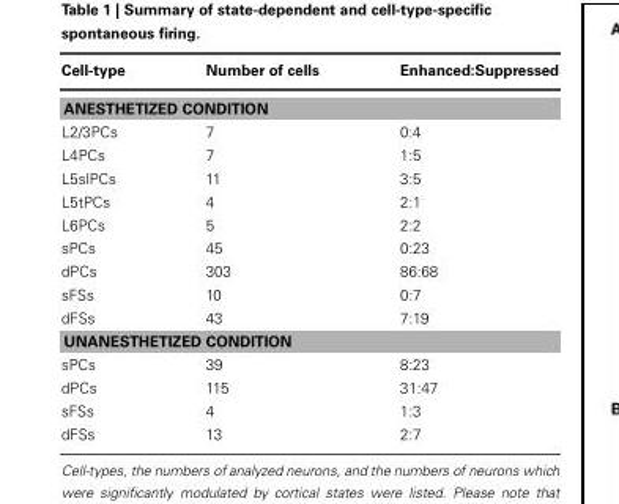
<table><thead><tr><td>Cell-type</td><td>Number of cells</td><td>Enhanced:Suppressed</td></tr></thead><tbody><tr><td colspan="3">ANESTHETIZED CONDITION</td></tr><tr><td>L2/3PCs</td><td>7</td><td>0:4</td></tr><tr><td>L4PCs</td><td>7</td><td>1:5</td></tr><tr><td>L5slPCs</td><td>11</td><td>3:5</td></tr><tr><td>L5tPCs</td><td>4</td><td>2:1</td></tr><tr><td>L6PCs</td><td>5</td><td>2:2</td></tr><tr><td>sPCs</td><td>45</td><td>0:23</td></tr><tr><td>dPCs</td><td>303</td><td>86:68</td></tr><tr><td>sFSs</td><td>10</td><td>0:7</td></tr><tr><td>dFSs</td><td>43</td><td>7:19</td></tr><tr><td colspan="3">UNANESTHETIZED CONDITION</td></tr><tr><td>sPCs</td><td>39</td><td>8:23</td></tr><tr><td>dPCs</td><td>115</td><td>31:47</td></tr><tr><td>sFSs</td><td>4</td><td>1:3</td></tr><tr><td>dFSs</td><td>13</td><td>2:7</td></tr></tbody></table>